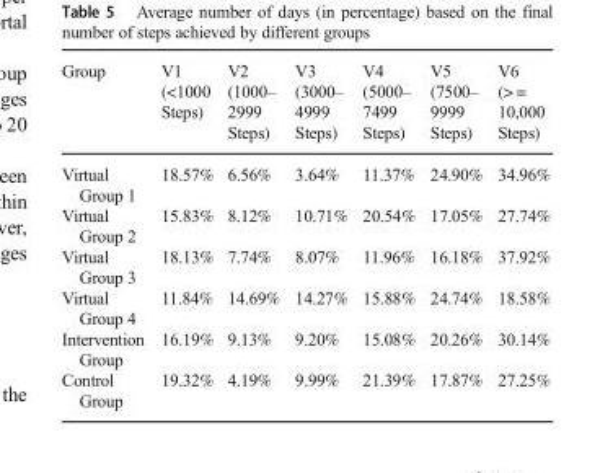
<table><thead><tr><td>Group</td><td>V1 (&lt;1000 Steps)</td><td>V2 (1000– 2999 Steps)</td><td>V3 (3000– 4999 Steps)</td><td>V4 (5000– 7499 Steps)</td><td>V5 (7500– 9999 Steps)</td><td>V6 (&gt; = 10,000 Steps)</td></tr></thead><tbody><tr><td>Virtual Group 1</td><td>18.57%</td><td>6.56%</td><td>3.64%</td><td>11.37%</td><td>24.90%</td><td>34.96%</td></tr><tr><td>Virtual Group 2</td><td>15.83%</td><td>8.12%</td><td>10.71%</td><td>20.54%</td><td>17.05%</td><td>27.74%</td></tr><tr><td>Virtual Group 3</td><td>18.13%</td><td>7.74%</td><td>8.07%</td><td>11.96%</td><td>16.18%</td><td>37.92%</td></tr><tr><td>Virtual Group 4</td><td>11.84%</td><td>14.69%</td><td>14.27%</td><td>15.88%</td><td>24.74%</td><td>18.58%</td></tr><tr><td>Intervention Group</td><td>16.19%</td><td>9.13%</td><td>9.20%</td><td>15.08%</td><td>20.26%</td><td>30.14%</td></tr><tr><td>Control Group</td><td>19.32%</td><td>4.19%</td><td>9.99%</td><td>21.39%</td><td>17.87%</td><td>27.25%</td></tr></tbody></table>